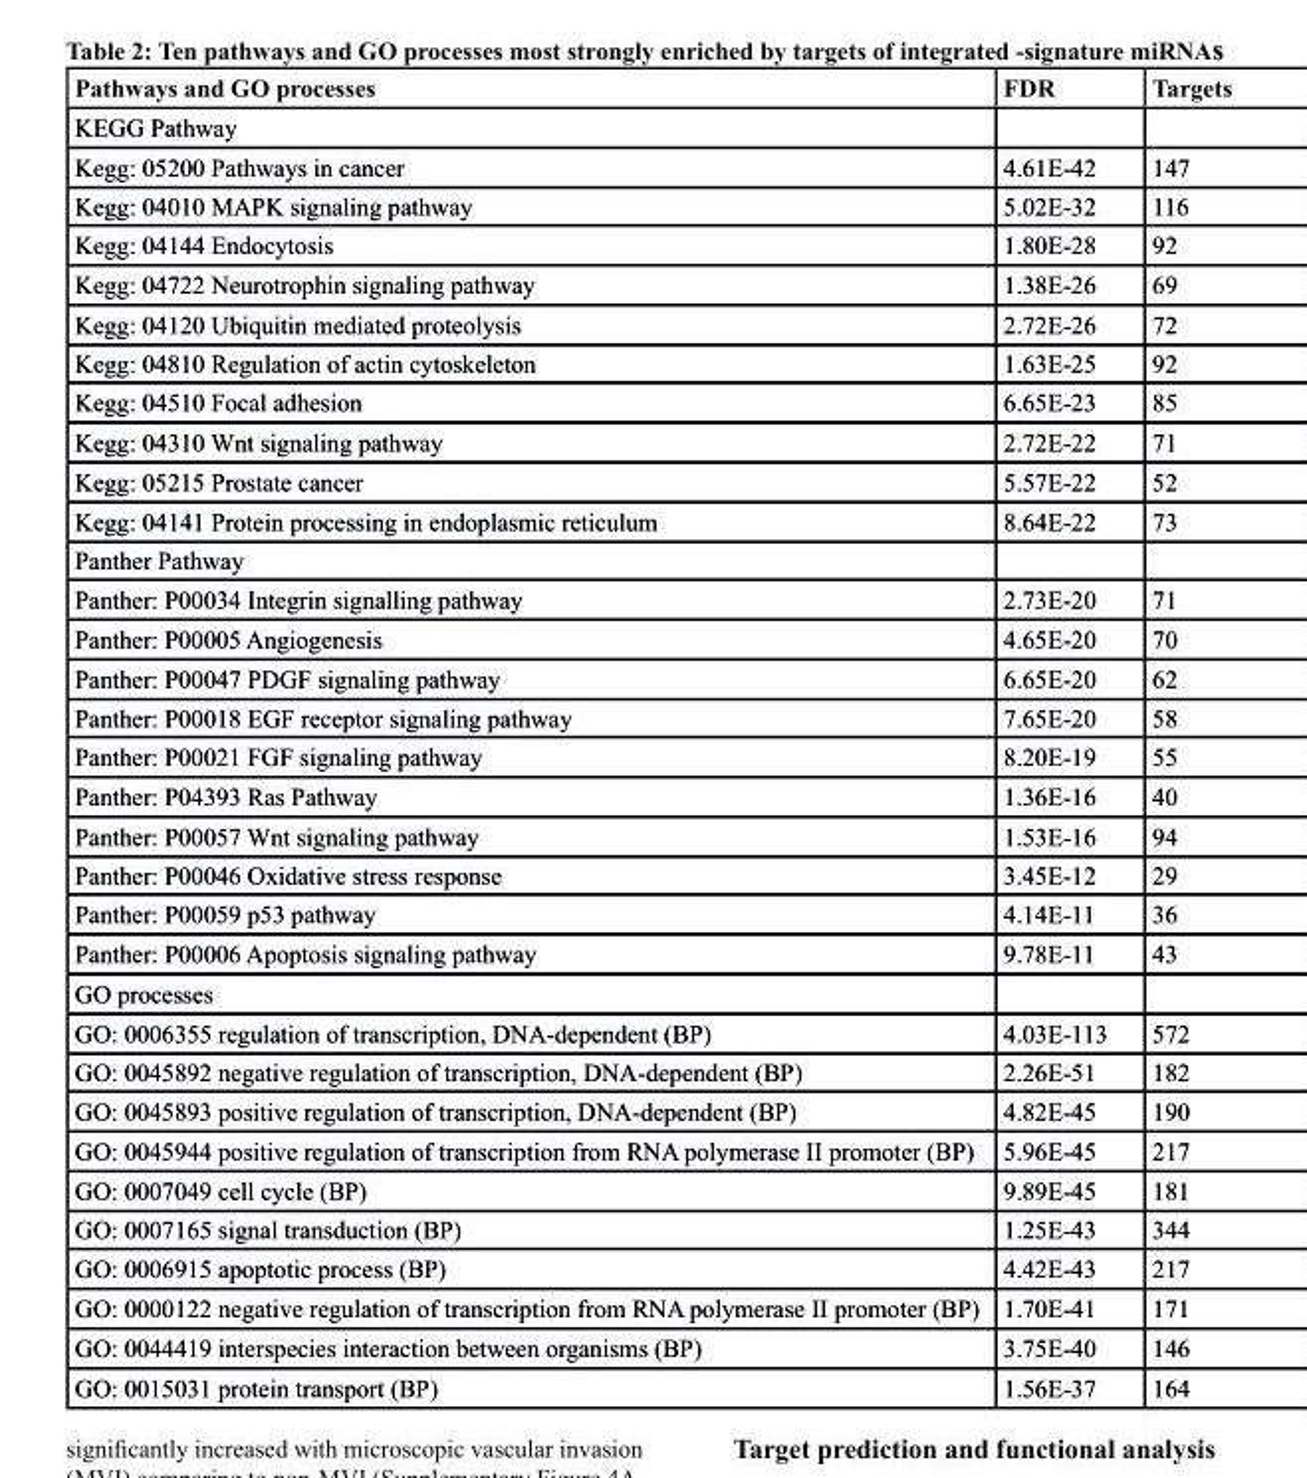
<table><thead><tr><td>Pathways and Go processes</td><td>Fdr</td><td>targets</td></tr></thead><tbody><tr><td colspan="3">KEGG Pathway</td></tr><tr><td>Kegg: 05200 Pathways in cancer</td><td>4.61E-42</td><td>147</td></tr><tr><td>Kegg: 04010 MAPK signaling pathway</td><td>5.02E-32</td><td>116</td></tr><tr><td>Kegg: 04144 Endocytosis</td><td>1.80E-28</td><td>92</td></tr><tr><td>Kegg: 04722 Neurotrophin signaling pathway</td><td>1.38E-26</td><td>69</td></tr><tr><td>Kegg: 04120 Ubiquitin mediated proteolysis</td><td>2.72E-26</td><td>72</td></tr><tr><td>Kegg: 04810 Regulation of actin cytoskeleton</td><td>1.63E-25</td><td>92</td></tr><tr><td>Kegg: 04510 Focal adhesion</td><td>6.65E-23</td><td>85</td></tr><tr><td>Kegg: 04310 Wnt signaling pathway</td><td>2.72E-22</td><td>71</td></tr><tr><td>Kegg: 05215 Prostate cancer</td><td>5.57E-22</td><td>52</td></tr><tr><td>Kegg: 04141 Protein processing in endoplasmic reticulum</td><td>8.64E-22</td><td>73</td></tr><tr><td colspan="3">Panther Pathway</td></tr><tr><td>Panther: P00034 Integrin signalling pathway</td><td>2.73E-20</td><td>71</td></tr><tr><td>Panther: P00005 Angiogenesis</td><td>4.65E-20</td><td>70</td></tr><tr><td>Panther: P00047 PDGF signaling pathway</td><td>6.65E-20</td><td>62</td></tr><tr><td>Panther: P00018 EGF receptor signaling pathway</td><td>7.65E-20</td><td>58</td></tr><tr><td>Panther: P00021 FGF signaling pathway</td><td>8.20E-19</td><td>55</td></tr><tr><td>Panther: P04393 Ras Pathway</td><td>1.36E-16</td><td>40</td></tr><tr><td>Panther: P00057 Wnt signaling pathway</td><td>1.53E-16</td><td>94</td></tr><tr><td>Panther: P00046 Oxidative stress response</td><td>3.45E-12</td><td>29</td></tr><tr><td>Panther: P00059 p53 pathway</td><td>4.14E-11</td><td>36</td></tr><tr><td>Panther: P00006 Apoptosis signaling pathway</td><td>9.78E-11</td><td>43</td></tr><tr><td colspan="3">GO processes</td></tr><tr><td>GO: 0006355 regulation of transcription, DNA-dependent (BP)</td><td>4.03E-113</td><td>572</td></tr><tr><td>GO: 0045892 negative regulation of transcription, DNA-dependent (BP)</td><td>2.26E-51</td><td>182</td></tr><tr><td>GO: 0045893 positive regulation of transcription, DNA-dependent (BP)</td><td>4.82E-45</td><td>190</td></tr><tr><td>GO: 0045944 positive regulation of transcription from RNA polymerase II promoter (BP)</td><td>5.96E-45</td><td>217</td></tr><tr><td>GO: 0007049 cell cycle (BP)</td><td>9.89E-45</td><td>181</td></tr><tr><td>GO: 0007165 signal transduction (BP)</td><td>1.25E-43</td><td>344</td></tr><tr><td>GO: 0006915 apoptotic process (BP)</td><td>4.42E-43</td><td>217</td></tr><tr><td>GO: 0000122 negative regulation of transcription from RNA polymerase II promoter (BP)</td><td>1.70E-41</td><td>171</td></tr><tr><td>GO: 0044419 interspecies interaction between organisms (BP)</td><td>3.75E-40</td><td>146</td></tr><tr><td>GO: 0015031 protein transport (BP)</td><td>1.56E-37</td><td>164</td></tr></tbody></table>